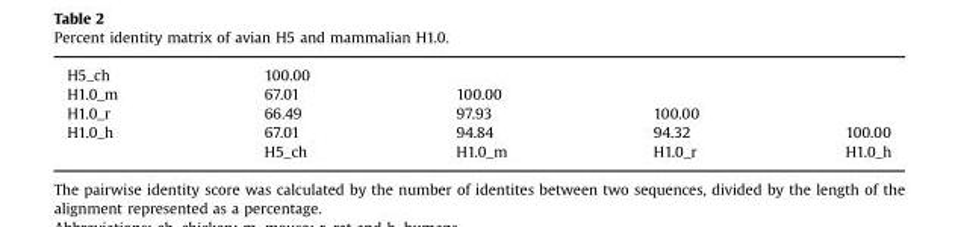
<table><tbody><tr><td>H5_ch</td><td>100.00</td><td></td><td></td><td></td></tr><tr><td>H1.0_m</td><td>67.01</td><td>100.00</td><td></td><td></td></tr><tr><td>H1.0_r</td><td>66.49</td><td>97.93</td><td>100.00</td><td></td></tr><tr><td rowspan="2">H1.0_h</td><td>67.01</td><td>94.84</td><td>94.32</td><td>100.00</td></tr><tr><td>H5_ch</td><td>H1.0_m</td><td>H1.0_r</td><td>H1.0_h</td></tr></tbody></table>